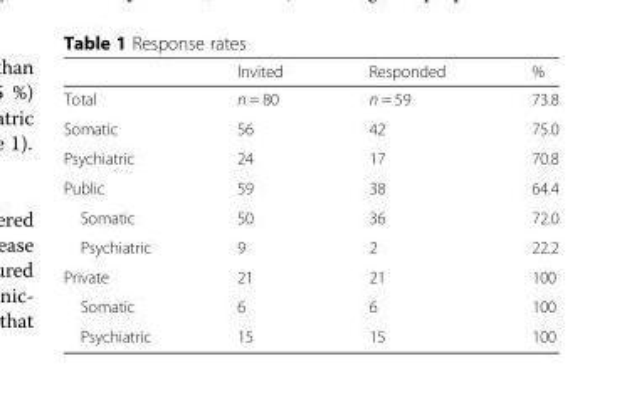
<table><thead><tr><td></td><td>Invited</td><td>Responded</td><td>%</td></tr></thead><tbody><tr><td>Total</td><td>n = 80</td><td>n = 59</td><td>73.8</td></tr><tr><td>Somatic</td><td>56</td><td>42</td><td>75.0</td></tr><tr><td>Psychiatric</td><td>24</td><td>17</td><td>70.8</td></tr><tr><td>Public</td><td>59</td><td>38</td><td>64.4</td></tr><tr><td>Somatic</td><td>50</td><td>36</td><td>72.0</td></tr><tr><td>Psychiatric</td><td>9</td><td>2</td><td>22.2</td></tr><tr><td>Private</td><td>21</td><td>21</td><td>100</td></tr><tr><td>Somatic</td><td>6</td><td>6</td><td>100</td></tr><tr><td>Psychiatric</td><td>15</td><td>15</td><td>100</td></tr></tbody></table>